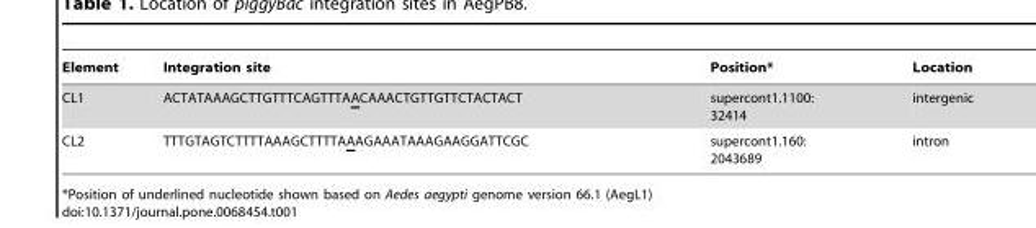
<table><thead><tr><td>Element</td><td>Integration site</td><td>Position*</td><td>Location</td></tr></thead><tbody><tr><td>CL1</td><td>ACTATAAAGCTTGTTTCAGTTTAACAAACTGTTGTTCTACTACT</td><td>supercont1.1100: 32414</td><td>intergenic</td></tr><tr><td>CL2</td><td>TTTGTAGTCTTTTAAAGCTTTTAAAGAAATAAAGAAGGATTCGC</td><td>supercont1.160: 2043689</td><td>intron</td></tr></tbody></table>